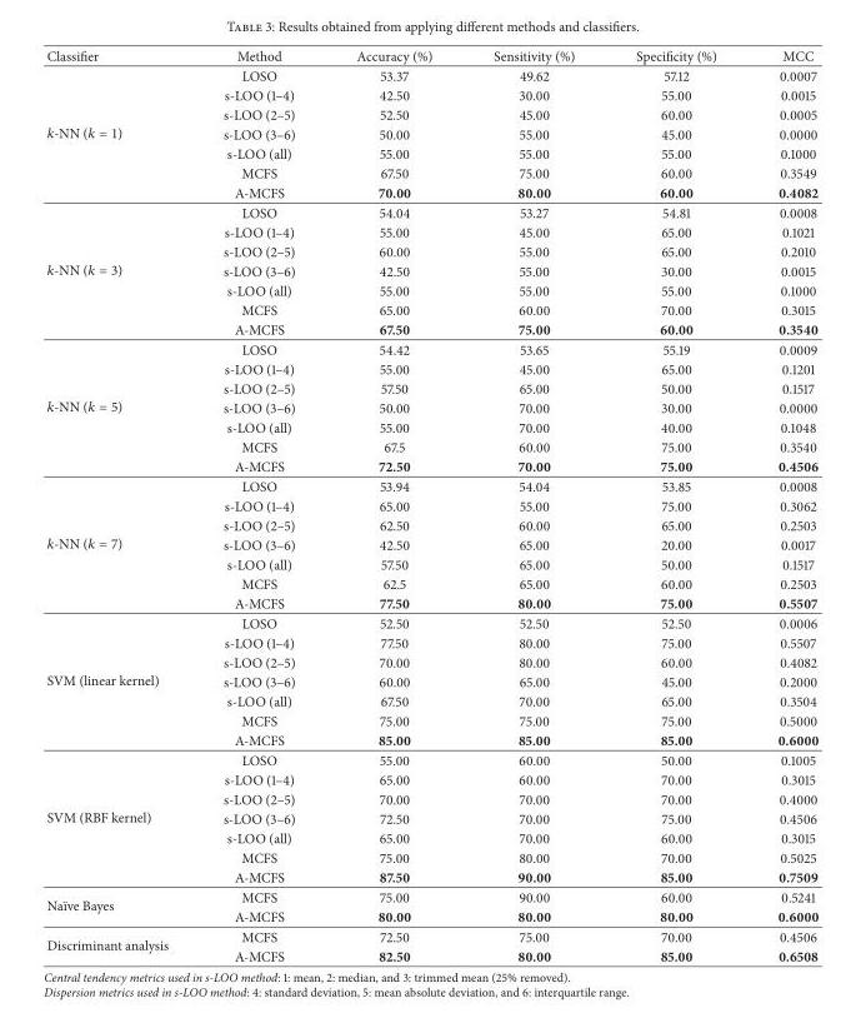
<table><thead><tr><td>Classifier</td><td>Method</td><td>Accuracy (%)</td><td>Sensitivity (%)</td><td>Specificity (%)</td><td>MCC</td></tr></thead><tbody><tr><td rowspan="7">𝑘-NN (𝑘 = 1)</td><td>LOSO</td><td>53.37</td><td>49.62</td><td>57.12</td><td>0.0007</td></tr><tr><td>s-LOO (1–4)</td><td>42.50</td><td>30.00</td><td>55.00</td><td>0.0015</td></tr><tr><td>s-LOO (2–5)</td><td>52.50</td><td>45.00</td><td>60.00</td><td>0.0005</td></tr><tr><td>s-LOO (3–6)</td><td>50.00</td><td>55.00</td><td>45.00</td><td>0.0000</td></tr><tr><td>s-LOO (all)</td><td>55.00</td><td>55.00</td><td>55.00</td><td>0.1000</td></tr><tr><td>MCFS</td><td>67.50</td><td>75.00</td><td>60.00</td><td>0.3549</td></tr><tr><td>A-MCFS</td><td>70.00</td><td>80.00</td><td>60.00</td><td>0.4082</td></tr><tr><td rowspan="7">𝑘-NN (𝑘 = 3)</td><td>LOSO</td><td>54.04</td><td>53.27</td><td>54.81</td><td>0.0008</td></tr><tr><td>s-LOO (1–4)</td><td>55.00</td><td>45.00</td><td>65.00</td><td>0.1021</td></tr><tr><td>s-LOO (2–5)</td><td>60.00</td><td>55.00</td><td>65.00</td><td>0.2010</td></tr><tr><td>s-LOO (3–6)</td><td>42.50</td><td>55.00</td><td>30.00</td><td>0.0015</td></tr><tr><td>s-LOO (all)</td><td>55.00</td><td>55.00</td><td>55.00</td><td>0.1000</td></tr><tr><td>MCFS</td><td>65.00</td><td>60.00</td><td>70.00</td><td>0.3015</td></tr><tr><td>A-MCFS</td><td>67.50</td><td>75.00</td><td>60.00</td><td>0.3540</td></tr><tr><td rowspan="7">𝑘-NN (𝑘 = 5)</td><td>LOSO</td><td>54.42</td><td>53.65</td><td>55.19</td><td>0.0009</td></tr><tr><td>s-LOO (1–4)</td><td>55.00</td><td>45.00</td><td>65.00</td><td>0.1201</td></tr><tr><td>s-LOO (2–5)</td><td>57.50</td><td>65.00</td><td>50.00</td><td>0.1517</td></tr><tr><td>s-LOO (3–6)</td><td>50.00</td><td>70.00</td><td>30.00</td><td>0.0000</td></tr><tr><td>s-LOO (all)</td><td>55.00</td><td>70.00</td><td>40.00</td><td>0.1048</td></tr><tr><td>MCFS</td><td>67.5</td><td>60.00</td><td>75.00</td><td>0.3540</td></tr><tr><td>A-MCFS</td><td>72.50</td><td>70.00</td><td>75.00</td><td>0.4506</td></tr><tr><td rowspan="7">𝑘-NN (𝑘 = 7)</td><td>LOSO</td><td>53.94</td><td>54.04</td><td>53.85</td><td>0.0008</td></tr><tr><td>s-LOO (1–4)</td><td>65.00</td><td>55.00</td><td>75.00</td><td>0.3062</td></tr><tr><td>s-LOO (2–5)</td><td>62.50</td><td>60.00</td><td>65.00</td><td>0.2503</td></tr><tr><td>s-LOO (3–6)</td><td>42.50</td><td>65.00</td><td>20.00</td><td>0.0017</td></tr><tr><td>s-LOO (all)</td><td>57.50</td><td>65.00</td><td>50.00</td><td>0.1517</td></tr><tr><td>MCFS</td><td>62.5</td><td>65.00</td><td>60.00</td><td>0.2503</td></tr><tr><td>A-MCFS</td><td>77.50</td><td>80.00</td><td>75.00</td><td>0.5507</td></tr><tr><td rowspan="7">SVM (linear kernel)</td><td>LOSO</td><td>52.50</td><td>52.50</td><td>52.50</td><td>0.0006</td></tr><tr><td>s-LOO (1–4)</td><td>77.50</td><td>80.00</td><td>75.00</td><td>0.5507</td></tr><tr><td>s-LOO (2–5)</td><td>70.00</td><td>80.00</td><td>60.00</td><td>0.4082</td></tr><tr><td>s-LOO (3–6)</td><td>60.00</td><td>65.00</td><td>45.00</td><td>0.2000</td></tr><tr><td>s-LOO (all)</td><td>67.50</td><td>70.00</td><td>65.00</td><td>0.3504</td></tr><tr><td>MCFS</td><td>75.00</td><td>75.00</td><td>75.00</td><td>0.5000</td></tr><tr><td>A-MCFS</td><td>85.00</td><td>85.00</td><td>85.00</td><td>0.6000</td></tr><tr><td rowspan="7">SVM (RBF kernel)</td><td>LOSO</td><td>55.00</td><td>60.00</td><td>50.00</td><td>0.1005</td></tr><tr><td>s-LOO (1–4)</td><td>65.00</td><td>60.00</td><td>70.00</td><td>0.3015</td></tr><tr><td>s-LOO (2–5)</td><td>70.00</td><td>70.00</td><td>70.00</td><td>0.4000</td></tr><tr><td>s-LOO (3–6)</td><td>72.50</td><td>70.00</td><td>75.00</td><td>0.4506</td></tr><tr><td>s-LOO (all)</td><td>65.00</td><td>70.00</td><td>60.00</td><td>0.3015</td></tr><tr><td>MCFS</td><td>75.00</td><td>80.00</td><td>70.00</td><td>0.5025</td></tr><tr><td>A-MCFS</td><td>87.50</td><td>90.00</td><td>85.00</td><td>0.7509</td></tr><tr><td rowspan="2">Na¨ıve Bayes</td><td>MCFS</td><td>75.00</td><td>90.00</td><td>60.00</td><td>0.5241</td></tr><tr><td>A-MCFS</td><td>80.00</td><td>80.00</td><td>80.00</td><td>0.6000</td></tr><tr><td rowspan="2">Discriminant analysis</td><td>MCFS</td><td>72.50</td><td>75.00</td><td>70.00</td><td>0.4506</td></tr><tr><td>A-MCFS</td><td>82.50</td><td>80.00</td><td>85.00</td><td>0.6508</td></tr></tbody></table>